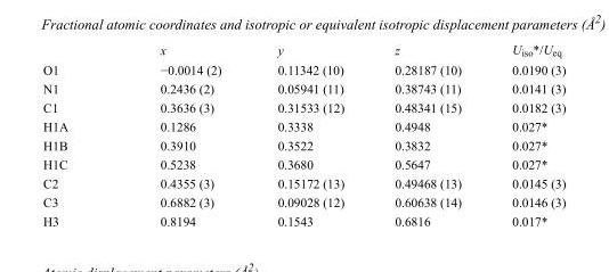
<table><thead><tr><td></td><td>x</td><td>y</td><td>z</td><td>U<sub>iso</sub>*/U<sub>eq</sub></td></tr></thead><tbody><tr><td>O1</td><td>−0.0014 (2)</td><td>0.11342 (10)</td><td>0.28187 (10)</td><td>0.0190 (3)</td></tr><tr><td>N1</td><td>0.2436 (2)</td><td>0.05941 (11)</td><td>0.38743 (11)</td><td>0.0141 (3)</td></tr><tr><td>C1</td><td>0.3636 (3)</td><td>0.31533 (12)</td><td>0.48341 (15)</td><td>0.0182 (3)</td></tr><tr><td>H1A</td><td>0.1286</td><td>0.3338</td><td>0.4948</td><td>0.027*</td></tr><tr><td>H1B</td><td>0.3910</td><td>0.3522</td><td>0.3832</td><td>0.027*</td></tr><tr><td>H1C</td><td>0.5238</td><td>0.3680</td><td>0.5647</td><td>0.027*</td></tr><tr><td>C2</td><td>0.4355 (3)</td><td>0.15172 (13)</td><td>0.49468 (13)</td><td>0.0145 (3)</td></tr><tr><td>C3</td><td>0.6882 (3)</td><td>0.09028 (12)</td><td>0.60638 (14)</td><td>0.0146 (3)</td></tr><tr><td>H3</td><td>0.8194</td><td>0.1543</td><td>0.6816</td><td>0.017*</td></tr></tbody></table>